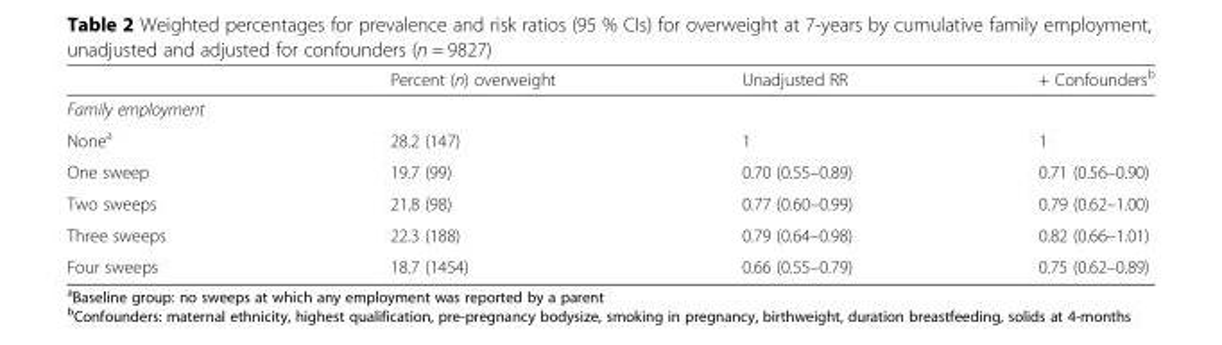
<table><thead><tr><td></td><td>Percent (n) overweight</td><td>Unadjusted RR</td><td>+ Confounders<sup>b</sup></td></tr></thead><tbody><tr><td colspan="4">Family employment</td></tr><tr><td>None<sup>a</sup></td><td>28.2 (147)</td><td>1</td><td>1</td></tr><tr><td>One sweep</td><td>19.7 (99)</td><td>0.70 (0.55–0.89)</td><td>0.71 (0.56–0.90)</td></tr><tr><td>Two sweeps</td><td>21.8 (98)</td><td>0.77 (0.60–0.99)</td><td>0.79 (0.62–1.00)</td></tr><tr><td>Three sweeps</td><td>22.3 (188)</td><td>0.79 (0.64–0.98)</td><td>0.82 (0.66–1.01)</td></tr><tr><td>Four sweeps</td><td>18.7 (1454)</td><td>0.66 (0.55–0.79)</td><td>0.75 (0.62–0.89)</td></tr></tbody></table>